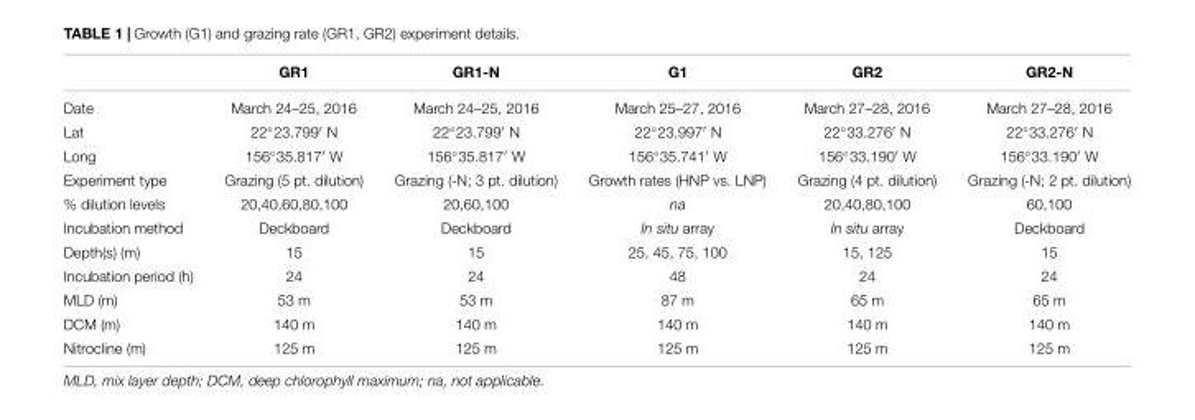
<table><thead><tr><td></td><td>GR1</td><td>GR1-N</td><td>G1</td><td>GR2</td><td>GR2-N</td></tr></thead><tbody><tr><td>Date</td><td>March 24–25, 2016</td><td>March 24–25, 2016</td><td>March 25–27, 2016</td><td>March 27–28, 2016</td><td>March 27–28, 2016</td></tr><tr><td>Lat</td><td>22◦23.799′ N</td><td>22◦23.799′ N</td><td>22◦23.997′ N</td><td>22◦33.276′ N</td><td>22◦33.276′ N</td></tr><tr><td>Long</td><td>156◦35.817′ W</td><td>156◦35.817′ W</td><td>156◦35.741′ W</td><td>156◦33.190′ W</td><td>156◦33.190′ W</td></tr><tr><td>Experiment type</td><td>Grazing (5 pt. dilution)</td><td>Grazing (-N; 3 pt. dilution)</td><td>Growth rates (HNP vs. LNP)</td><td>Grazing (4 pt. dilution)</td><td>Grazing (-N; 2 pt. dilution)</td></tr><tr><td>% dilution levels</td><td>20,40,60,80,100</td><td>20,60,100</td><td>na</td><td>20,40,80,100</td><td>60,100</td></tr><tr><td>Incubation method</td><td>Deckboard</td><td>Deckboard</td><td>In situ array</td><td>In situ array</td><td>Deckboard</td></tr><tr><td>Depth(s) (m)</td><td>15</td><td>15</td><td>25, 45, 75, 100</td><td>15, 125</td><td>15</td></tr><tr><td>Incubation period (h)</td><td>24</td><td>24</td><td>48</td><td>24</td><td>24</td></tr><tr><td>MLD (m)</td><td>53 m</td><td>53 m</td><td>87 m</td><td>65 m</td><td>65 m</td></tr><tr><td>DCM (m)</td><td>140 m</td><td>140 m</td><td>140 m</td><td>140 m</td><td>140 m</td></tr><tr><td>Nitrocline (m)</td><td>125 m</td><td>125 m</td><td>125 m</td><td>125 m</td><td>125 m</td></tr></tbody></table>